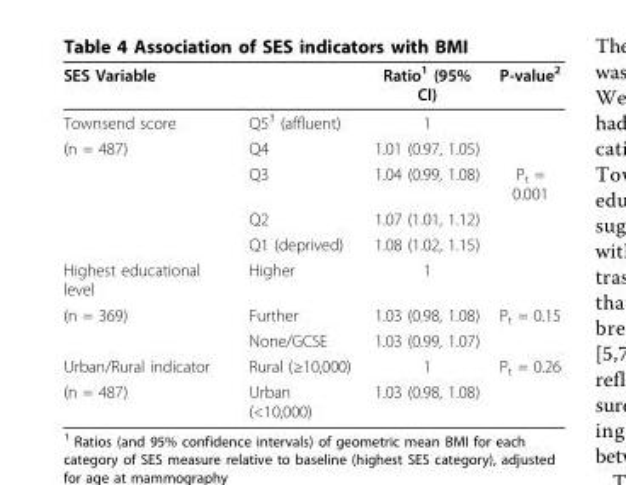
<table><thead><tr><td>SES Variable</td><td></td><td>Ratio<sup>1</sup> (95% CI)</td><td>P-value<sup>2</sup></td></tr></thead><tbody><tr><td>Townsend score</td><td>Q5<sup>3</sup> (affluent)</td><td>1</td><td></td></tr><tr><td rowspan="4">(n = 487)</td><td>Q4</td><td>1.01 (0.97, 1.05)</td><td></td></tr><tr><td>Q3</td><td>1.04 (0.99, 1.08)</td><td>P<sub>t</sub> = 0.001</td></tr><tr><td>Q2</td><td>1.07 (1.01, 1.12)</td><td></td></tr><tr><td>Q1 (deprived)</td><td>1.08 (1.02, 1.15)</td><td></td></tr><tr><td>Highest educational level</td><td>Higher</td><td>1</td><td></td></tr><tr><td rowspan="2">(n = 369)</td><td>Further</td><td>1.03 (0.98, 1.08)</td><td>P<sub>t</sub> = 0.15</td></tr><tr><td>None/GCSE</td><td>1.03 (0.99, 1.07)</td><td></td></tr><tr><td>Urban/Rural indicator</td><td>Rural (≥10,000)</td><td>1</td><td>P<sub>t</sub> = 0.26</td></tr><tr><td>(n = 487)</td><td>Urban (&lt;10,000)</td><td>1.03 (0.98, 1.08)</td><td></td></tr></tbody></table>